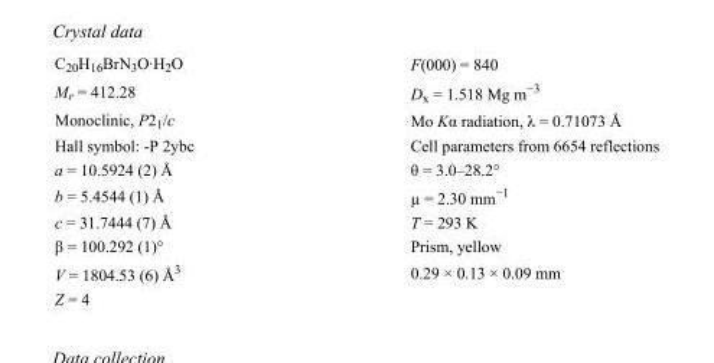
<table><tbody><tr><td>C<sub>20</sub>H<sub>16</sub>BrN<sub>3</sub>O·H<sub>2</sub>O</td><td>F(000) = 840</td></tr><tr><td>M<sub>r</sub> = 412.28</td><td>D<sub>x</sub> = 1.518 Mg m<sup>−3</sup></td></tr><tr><td>Monoclinic, P2<sub>1</sub>/c</td><td>Mo Kα radiation, λ = 0.71073 Å</td></tr><tr><td>Hall symbol: -P 2ybc</td><td>Cell parameters from 6654 reflections</td></tr><tr><td>a = 10.5924 (2) Å</td><td>θ = 3.0–28.2°</td></tr><tr><td>b = 5.4544 (1) Å</td><td>µ = 2.30 mm<sup>−1</sup></td></tr><tr><td>c = 31.7444 (7) Å</td><td>T = 293 K</td></tr><tr><td>β = 100.292 (1)°</td><td>Prism, yellow</td></tr><tr><td>V = 1804.53 (6) Å<sup>3</sup></td><td>0.29 × 0.13 × 0.09 mm</td></tr><tr><td>Z = 4</td><td></td></tr></tbody></table>